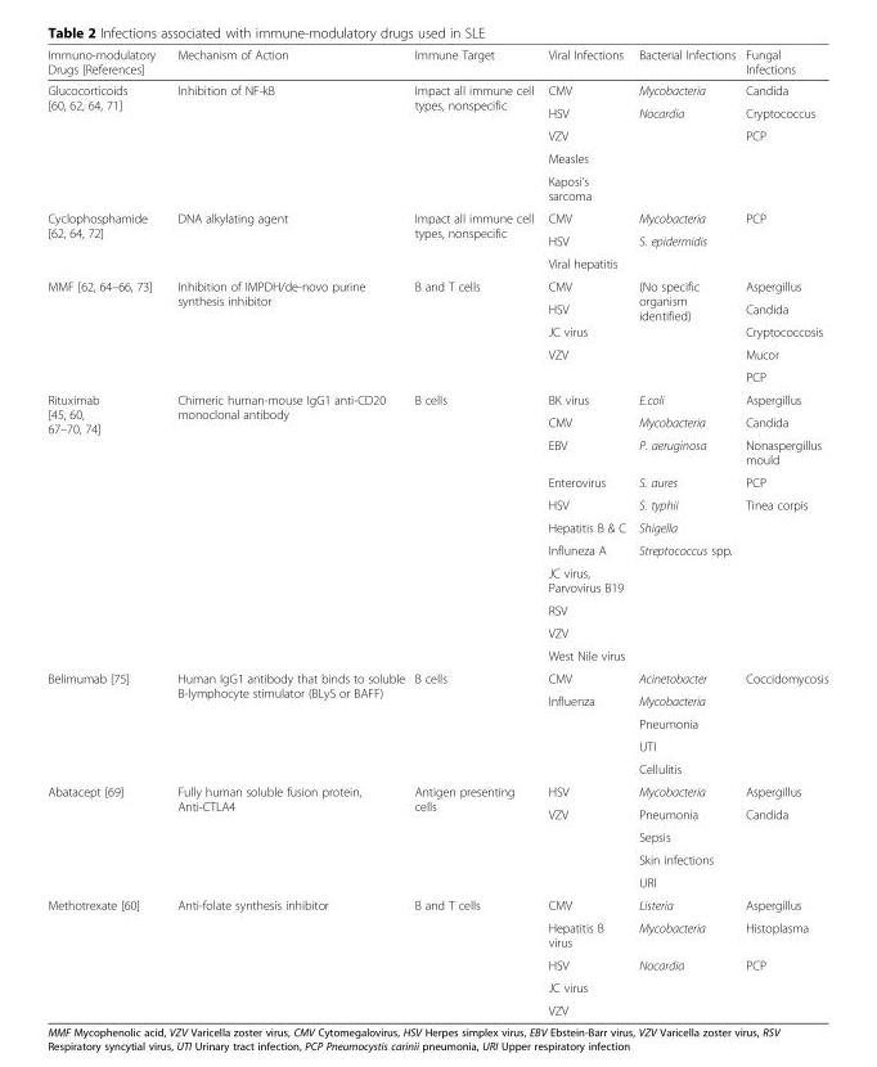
<table><thead><tr><td>Immuno-modulatory Drugs [References]</td><td>Mechanism of Action</td><td>Immune Target</td><td>Viral Infections</td><td>Bacterial Infections</td><td>Fungal Infections</td></tr></thead><tbody><tr><td rowspan="5">Glucocorticoids [60, 62, 64, 71]</td><td rowspan="5">Inhibition of NF-kB</td><td rowspan="5">Impact all immune cell types, nonspecific</td><td>CMV</td><td>Mycobacteria</td><td>Candida</td></tr><tr><td>HSV</td><td rowspan="4">Nocardia</td><td>Cryptococcus</td></tr><tr><td>VZV</td><td rowspan="3">PCP</td></tr><tr><td>Measles</td></tr><tr><td>Kaposi’s sarcoma</td></tr><tr><td rowspan="3">Cyclophosphamide [62, 64, 72]</td><td rowspan="3">DNA alkylating agent</td><td rowspan="3">Impact all immune cell types, nonspecific</td><td>CMV</td><td>Mycobacteria</td><td rowspan="3">PCP</td></tr><tr><td>HSV</td><td rowspan="2">S. epidermidis</td></tr><tr><td>Viral hepatitis</td></tr><tr><td rowspan="5">MMF [62, 64–66, 73]</td><td rowspan="5">Inhibition of IMPDH/de-novo purine synthesis inhibitor</td><td rowspan="5">B and T cells</td><td>CMV</td><td rowspan="5">(No specific organism identified)</td><td>Aspergillus</td></tr><tr><td>HSV</td><td>Candida</td></tr><tr><td>JC virus</td><td>Cryptococcosis</td></tr><tr><td rowspan="2">VZV</td><td>Mucor</td></tr><tr><td>PCP</td></tr><tr><td rowspan="11">Rituximab [45, 60, 67–70, 74]</td><td rowspan="11">Chimeric human-mouse IgG1 anti-CD20 monoclonal antibody</td><td rowspan="11">B cells</td><td>BK virus</td><td>E.coli</td><td>Aspergillus</td></tr><tr><td>CMV</td><td>Mycobacteria</td><td>Candida</td></tr><tr><td>EBV</td><td>P. aeruginosa</td><td>Nonaspergillus mould</td></tr><tr><td>Enterovirus</td><td>S. aures</td><td>PCP</td></tr><tr><td>HSV</td><td>S. typhii</td><td rowspan="7">Tinea corpis</td></tr><tr><td>Hepatitis B &amp; C</td><td>Shigella</td></tr><tr><td>Influneza A</td><td rowspan="5">Streptococcus spp.</td></tr><tr><td>JC virus, Parvovirus B19</td></tr><tr><td>RSV</td></tr><tr><td>VZV</td></tr><tr><td>West Nile virus</td></tr><tr><td rowspan="5">Belimumab [75]</td><td rowspan="5">Human IgG1 antibody that binds to soluble B-lymphocyte stimulator (BLyS or BAFF)</td><td rowspan="5">B cells</td><td>CMV</td><td>Acinetobacter</td><td rowspan="5">Coccidomycosis</td></tr><tr><td rowspan="4">Influenza</td><td>Mycobacteria</td></tr><tr><td>Pneumonia</td></tr><tr><td>UTI</td></tr><tr><td>Cellulitis</td></tr><tr><td rowspan="5">Abatacept [69]</td><td rowspan="5">Fully human soluble fusion protein, Anti-CTLA4</td><td rowspan="5">Antigen presenting cells</td><td>HSV</td><td>Mycobacteria</td><td>Aspergillus</td></tr><tr><td rowspan="4">VZV</td><td>Pneumonia</td><td rowspan="4">Candida</td></tr><tr><td>Sepsis</td></tr><tr><td>Skin infections</td></tr><tr><td>URI</td></tr><tr><td rowspan="5">Methotrexate [60]</td><td rowspan="5">Anti-folate synthesis inhibitor</td><td rowspan="5">B and T cells</td><td>CMV</td><td>Listeria</td><td>Aspergillus</td></tr><tr><td>Hepatitis B virus</td><td>Mycobacteria</td><td>Histoplasma</td></tr><tr><td>HSV</td><td rowspan="3">Nocardia</td><td rowspan="3">PCP</td></tr><tr><td>JC virus</td></tr><tr><td>VZV</td></tr></tbody></table>